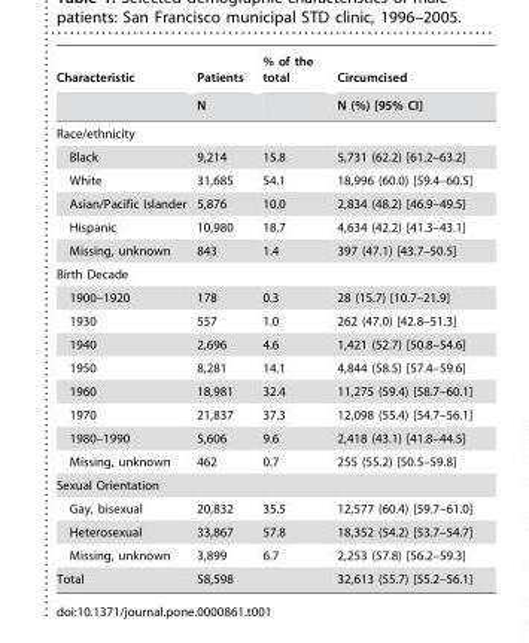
<table><thead><tr><td rowspan="2">Characteristic</td><td rowspan="2">Patients N</td><td rowspan="2">% of the total</td><td rowspan="2">Circumcised N (%) [95% CI]</td></tr><tr></tr></thead><tbody><tr><td colspan="4">Race/ethnicity</td></tr><tr><td>Black</td><td>9,214</td><td>15.8</td><td>5,731 (62.2) [61.2–63.2]</td></tr><tr><td>White</td><td>31,685</td><td>54.1</td><td>18,996 (60.0) [59.4–60.5]</td></tr><tr><td>Asian/Pacific Islander</td><td>5,876</td><td>10.0</td><td>2,834 (48.2) [46.9–49.5]</td></tr><tr><td>Hispanic</td><td>10,980</td><td>18.7</td><td>4,634 (42.2) [41.3–43.1]</td></tr><tr><td>Missing, unknown</td><td>843</td><td>1.4</td><td>397 (47.1) [43.7–50.5]</td></tr><tr><td colspan="4">Birth Decade</td></tr><tr><td>1900–1920</td><td>178</td><td>0.3</td><td>28 (15.7) [10.7–21.9]</td></tr><tr><td>1930</td><td>557</td><td>1.0</td><td>262 (47.0) [42.8–51.3]</td></tr><tr><td>1940</td><td>2,696</td><td>4.6</td><td>1,421 (52.7) [50.8–54.6]</td></tr><tr><td>1950</td><td>8,281</td><td>14.1</td><td>4,844 (58.5) [57.4–59.6]</td></tr><tr><td>1960</td><td>18,981</td><td>32.4</td><td>11,275 (59.4) [58.7–60.1]</td></tr><tr><td>1970</td><td>21,837</td><td>37.3</td><td>12,098 (55.4) [54.7–56.1]</td></tr><tr><td>1980–1990</td><td>5,606</td><td>9.6</td><td>2,418 (43.1) [41.8–44.5]</td></tr><tr><td>Missing, unknown</td><td>462</td><td>0.7</td><td>255 (55.2) [50.5–59.8]</td></tr><tr><td colspan="4">Sexual Orientation</td></tr><tr><td>Gay, bisexual</td><td>20,832</td><td>35.5</td><td>12,577 (60.4) [59.7–61.0]</td></tr><tr><td>Heterosexual</td><td>33,867</td><td>57.8</td><td>18,352 (54.2) [53.7–54.7]</td></tr><tr><td>Missing, unknown</td><td>3,899</td><td>6.7</td><td>2,253 (57.8) [56.2–59.3]</td></tr><tr><td>Total</td><td>58,598</td><td></td><td>32,613 (55.7) [55.2–56.1]</td></tr></tbody></table>